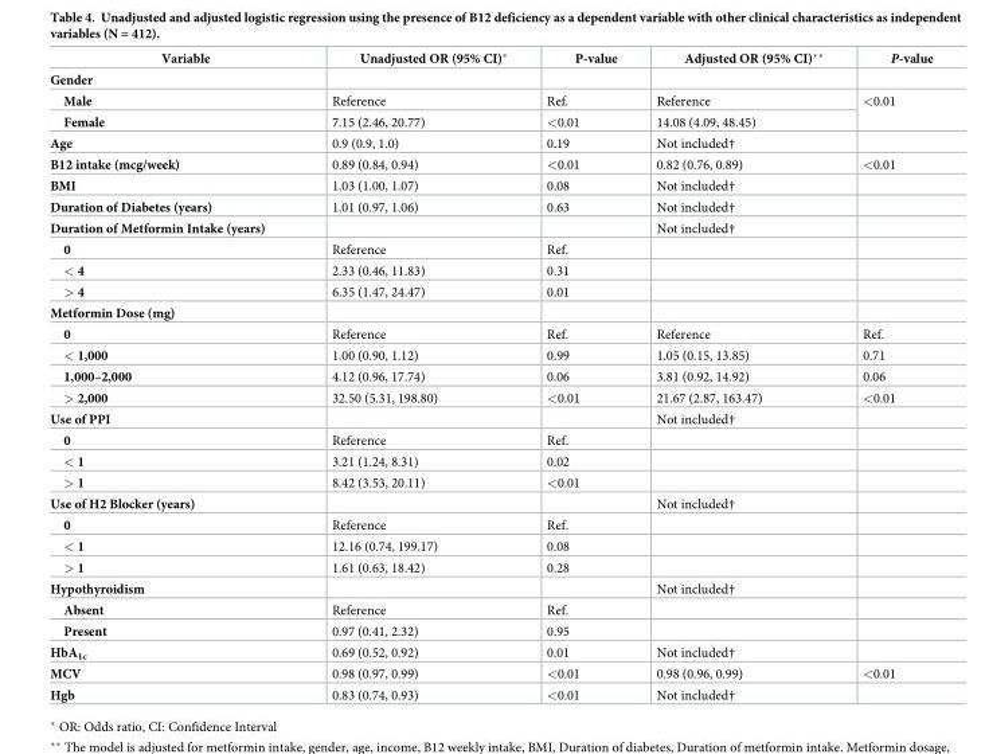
<table><thead><tr><td>Variable</td><td>Unadjusted OR (95% CI)*</td><td>P-value</td><td>Adjusted OR (95% CI)**</td><td>P-value</td></tr></thead><tbody><tr><td colspan="5">Gender</td></tr><tr><td>Male</td><td>Reference</td><td>Ref.</td><td>Reference</td><td rowspan="2">&lt;0.01</td></tr><tr><td>Female</td><td>7.15 (2.46, 20.77)</td><td>&lt;0.01</td><td>14.08 (4.09, 48.45)</td></tr><tr><td>Age</td><td>0.9 (0.9, 1.0)</td><td>0.19</td><td>Not included†</td><td></td></tr><tr><td>B12 intake (mcg/week)</td><td>0.89 (0.84, 0.94)</td><td>&lt;0.01</td><td>0.82 (0.76, 0.89)</td><td>&lt;0.01</td></tr><tr><td>BMI</td><td>1.03 (1.00, 1.07)</td><td>0.08</td><td>Not included†</td><td></td></tr><tr><td>Duration of Diabetes (years)</td><td>1.01 (0.97, 1.06)</td><td>0.63</td><td>Not included†</td><td></td></tr><tr><td>Duration of Metformin Intake (years)</td><td></td><td></td><td>Not included†</td><td></td></tr><tr><td>0</td><td>Reference</td><td>Ref.</td><td></td><td></td></tr><tr><td>&lt; 4</td><td>2.33 (0.46, 11.83)</td><td>0.31</td><td></td><td></td></tr><tr><td>&gt; 4</td><td>6.35 (1.47, 24.47)</td><td>0.01</td><td></td><td></td></tr><tr><td colspan="5">Metformin Dose (mg)</td></tr><tr><td>0</td><td>Reference</td><td>Ref.</td><td>Reference</td><td>Ref.</td></tr><tr><td>&lt; 1,000</td><td>1.00 (0.90, 1.12)</td><td>0.99</td><td>1.05 (0.15, 13.85)</td><td>0.71</td></tr><tr><td>1,000–2,000</td><td>4.12 (0.96, 17.74)</td><td>0.06</td><td>3.81 (0.92, 14.92)</td><td>0.06</td></tr><tr><td>&gt; 2,000</td><td>32.50 (5.31, 198.80)</td><td>&lt;0.01</td><td>21.67 (2.87, 163.47)</td><td>&lt;0.01</td></tr><tr><td>Use of PPI</td><td></td><td></td><td>Not included†</td><td></td></tr><tr><td>0</td><td>Reference</td><td>Ref.</td><td></td><td></td></tr><tr><td>&lt; 1</td><td>3.21 (1.24, 8.31)</td><td>0.02</td><td></td><td></td></tr><tr><td>&gt; 1</td><td>8.42 (3.53, 20.11)</td><td>&lt;0.01</td><td></td><td></td></tr><tr><td>Use of H2 Blocker (years)</td><td></td><td></td><td>Not included†</td><td></td></tr><tr><td>0</td><td>Reference</td><td>Ref.</td><td></td><td></td></tr><tr><td>&lt; 1</td><td>12.16 (0.74, 199.17)</td><td>0.08</td><td></td><td></td></tr><tr><td>&gt; 1</td><td>1.61 (0.63, 18.42)</td><td>0.28</td><td></td><td></td></tr><tr><td>Hypothyroidism</td><td></td><td></td><td>Not included†</td><td></td></tr><tr><td>Absent</td><td>Reference</td><td>Ref.</td><td></td><td></td></tr><tr><td>Present</td><td>0.97 (0.41, 2.32)</td><td>0.95</td><td></td><td></td></tr><tr><td>HbA<sub>1c</sub></td><td>0.69 (0.52, 0.92)</td><td>0.01</td><td>Not included†</td><td></td></tr><tr><td>MCV</td><td>0.98 (0.97, 0.99)</td><td>&lt;0.01</td><td>0.98 (0.96, 0.99)</td><td>&lt;0.01</td></tr><tr><td>Hgb</td><td>0.83 (0.74, 0.93)</td><td>&lt;0.01</td><td>Not included†</td><td></td></tr></tbody></table>